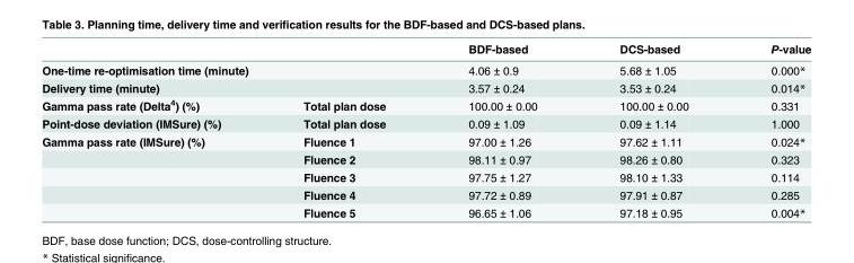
<table><thead><tr><td></td><td></td><td>BDF-based</td><td>DCS-based</td><td>P-value</td></tr></thead><tbody><tr><td colspan="2">One-time re-optimisation time (minute)</td><td>4.06 ± 0.9</td><td>5.68 ± 1.05</td><td>0.000*</td></tr><tr><td>Delivery time (minute)</td><td></td><td>3.57 ± 0.24</td><td>3.53 ± 0.24</td><td>0.014*</td></tr><tr><td>Gamma pass rate (Delta<sup>4</sup>) (%)</td><td>Total plan dose</td><td>100.00 ± 0.00</td><td>100.00 ± 0.00</td><td>0.331</td></tr><tr><td>Point-dose deviation (IMSure) (%)</td><td>Total plan dose</td><td>0.09 ± 1.09</td><td>0.09 ± 1.14</td><td>1.000</td></tr><tr><td rowspan="5">Gamma pass rate (IMSure) (%)</td><td>Fluence 1</td><td>97.00 ± 1.26</td><td>97.62 ± 1.11</td><td>0.024*</td></tr><tr><td>Fluence 2</td><td>98.11 ± 0.97</td><td>98.26 ± 0.80</td><td>0.323</td></tr><tr><td>Fluence 3</td><td>97.75 ± 1.27</td><td>98.10 ± 1.33</td><td>0.114</td></tr><tr><td>Fluence 4</td><td>97.72 ± 0.89</td><td>97.91 ± 0.87</td><td>0.285</td></tr><tr><td>Fluence 5</td><td>96.65 ± 1.06</td><td>97.18 ± 0.95</td><td>0.004*</td></tr></tbody></table>